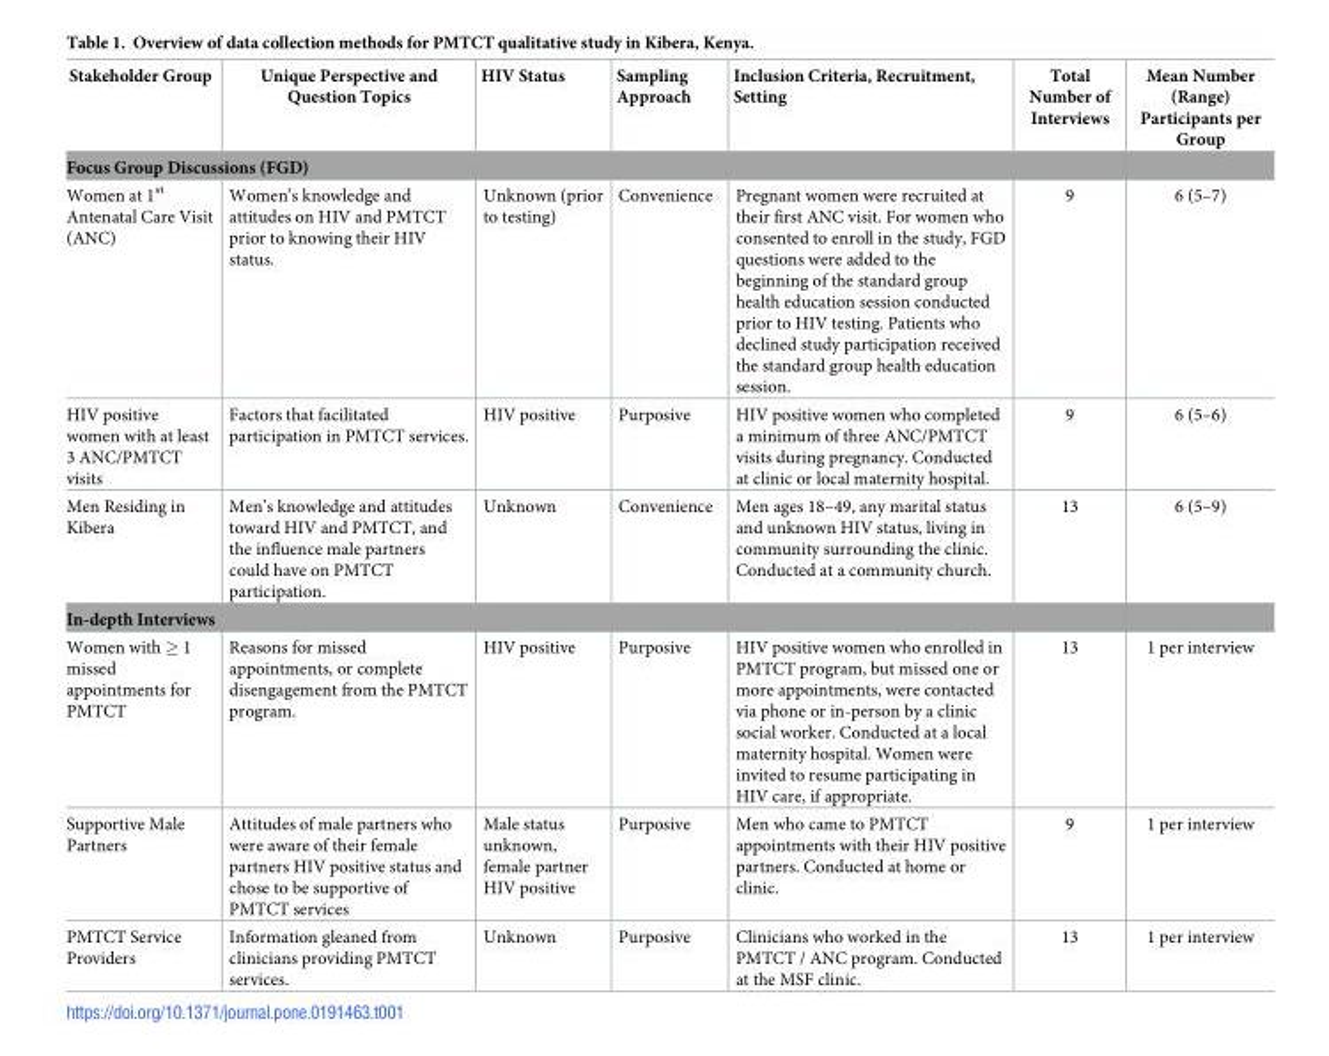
<table><thead><tr><td>Stakeholder Group</td><td>Unique Perspective and Question Topics</td><td>HIV Status</td><td>Sampling Approach</td><td>Inclusion Criteria, Recruitment, Setting</td><td>Total Number of Interviews</td><td>Mean Number (Range) Participants per Group</td></tr></thead><tbody><tr><td colspan="7">Focus Group Discussions (FGD)</td></tr><tr><td>Women at 1<sup>st</sup> Antenatal Care Visit (ANC)</td><td>Women’s knowledge and attitudes on HIV and PMTCT prior to knowing their HIV status.</td><td>Unknown (prior to testing)</td><td>Convenience</td><td>Pregnant women were recruited at their first ANC visit. For women who consented to enroll in the study, FGD questions were added to the beginning of the standard group health education session conducted prior to HIV testing. Patients who declined study participation received the standard group health education session.</td><td>9</td><td>6 (5–7)</td></tr><tr><td>HIV positive women with at least 3 ANC/PMTCT visits</td><td>Factors that facilitated participation in PMTCT services.</td><td>HIV positive</td><td>Purposive</td><td>HIV positive women who completed a minimum of three ANC/PMTCT visits during pregnancy. Conducted at clinic or local maternity hospital.</td><td>9</td><td>6 (5–6)</td></tr><tr><td>Men Residing in Kibera</td><td>Men’s knowledge and attitudes toward HIV and PMTCT, and the influence male partners could have on PMTCT participation.</td><td>Unknown</td><td>Convenience</td><td>Men ages 18–49, any marital status and unknown HIV status, living in community surrounding the clinic. Conducted at a community church.</td><td>13</td><td>6 (5–9)</td></tr><tr><td colspan="7">In-depth Interviews</td></tr><tr><td>Women with ≥ 1 missed appointments for PMTCT</td><td>Reasons for missed appointments, or complete disengagement from the PMTCT program.</td><td>HIV positive</td><td>Purposive</td><td>HIV positive women who enrolled in PMTCT program, but missed one or more appointments, were contacted via phone or in-person by a clinic social worker. Conducted at a local maternity hospital. Women were invited to resume participating in HIV care, if appropriate.</td><td>13</td><td>1 per interview</td></tr><tr><td>Supportive Male Partners</td><td>Attitudes of male partners who were aware of their female partners HIV positive status and chose to be supportive of PMTCT services</td><td>Male status unknown, female partner HIV positive</td><td>Purposive</td><td>Men who came to PMTCT appointments with their HIV positive partners. Conducted at home or clinic.</td><td>9</td><td>1 per interview</td></tr><tr><td>PMTCT Service Providers</td><td>Information gleaned from clinicians providing PMTCT services.</td><td>Unknown</td><td>Purposive</td><td>Clinicians who worked in the PMTCT / ANC program. Conducted at the MSF clinic.</td><td>13</td><td>1 per interview</td></tr></tbody></table>